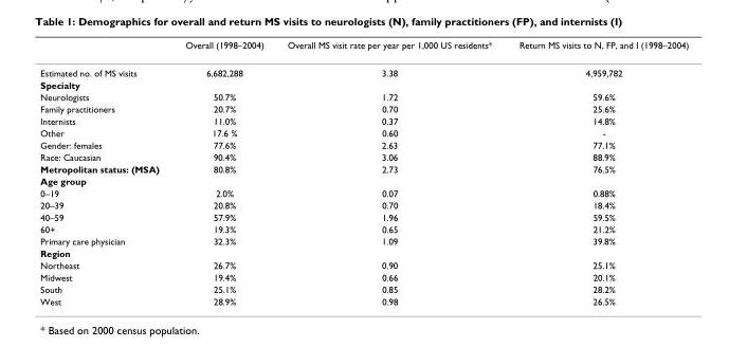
<table><thead><tr><td></td><td>Overall (1998–2004)</td><td>Overall MS visit rate per year per 1,000 US residents*</td><td>Return MS visits to N, FP, and I (1998–2004)</td></tr></thead><tbody><tr><td>Estimated no. of MS visits</td><td>6,682,288</td><td>3.38</td><td>4,959,782</td></tr><tr><td colspan="4">Specialty</td></tr><tr><td>Neurologists</td><td>50.7%</td><td>1.72</td><td>59.6%</td></tr><tr><td>Family practitioners</td><td>20.7%</td><td>0.70</td><td>25.6%</td></tr><tr><td>Internists</td><td>11.0%</td><td>0.37</td><td>14.8%</td></tr><tr><td>Other</td><td>17.6 %</td><td>0.60</td><td>-</td></tr><tr><td>Gender: females</td><td>77.6%</td><td>2.63</td><td>77.1%</td></tr><tr><td>Race: Caucasian</td><td>90.4%</td><td>3.06</td><td>88.9%</td></tr><tr><td>Metropolitan status: (MSA)</td><td>80.8%</td><td>2.73</td><td>76.5%</td></tr><tr><td colspan="4">Age group</td></tr><tr><td>0–19</td><td>2.0%</td><td>0.07</td><td>0.88%</td></tr><tr><td>20–39</td><td>20.8%</td><td>0.70</td><td>18.4%</td></tr><tr><td>40–59</td><td>57.9%</td><td>1.96</td><td>59.5%</td></tr><tr><td>60+</td><td>19.3%</td><td>0.65</td><td>21.2%</td></tr><tr><td>Primary care physician</td><td>32.3%</td><td>1.09</td><td>39.8%</td></tr><tr><td colspan="4">Region</td></tr><tr><td>Northeast</td><td>26.7%</td><td>0.90</td><td>25.1%</td></tr><tr><td>Midwest</td><td>19.4%</td><td>0.66</td><td>20.1%</td></tr><tr><td>South</td><td>25.1%</td><td>0.85</td><td>28.2%</td></tr><tr><td>West</td><td>28.9%</td><td>0.98</td><td>26.5%</td></tr></tbody></table>